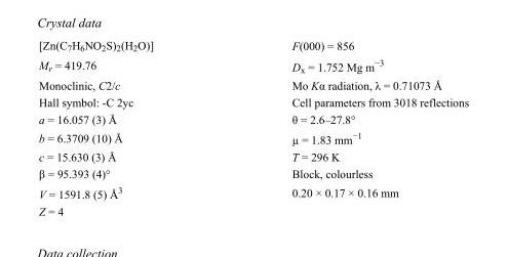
<table><tbody><tr><td>[Zn(C<sub>7</sub>H<sub>6</sub>NO<sub>2</sub>S)<sub>2</sub>(H<sub>2</sub>O)]</td><td>F(000) = 856</td></tr><tr><td>M<sub>r</sub> = 419.76</td><td>D<sub>x</sub> = 1.752 Mg m<sup>−3</sup></td></tr><tr><td>Monoclinic, C2/c</td><td>Mo Kα radiation, λ = 0.71073 Å</td></tr><tr><td>Hall symbol: -C 2yc</td><td>Cell parameters from 3018 reflections</td></tr><tr><td>a = 16.057 (3) Å</td><td>θ = 2.6–27.8°</td></tr><tr><td>b = 6.3709 (10) Å</td><td>µ = 1.83 mm<sup>−1</sup></td></tr><tr><td>c = 15.630 (3) Å</td><td>T = 296 K</td></tr><tr><td>β = 95.393 (4)°</td><td>Block, colourless</td></tr><tr><td>V = 1591.8 (5) Å<sup>3</sup></td><td>0.20 × 0.17 × 0.16 mm</td></tr><tr><td>Z = 4</td><td></td></tr></tbody></table>